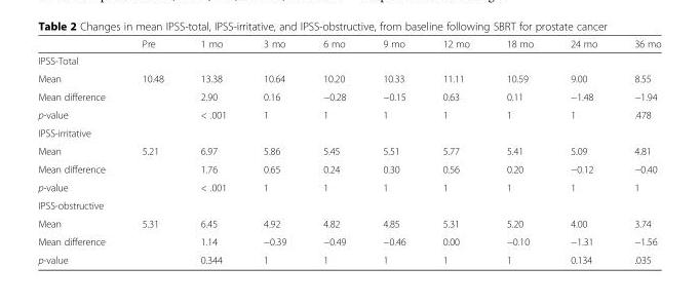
<table><thead><tr><td></td><td>Pre</td><td>1 mo</td><td>3 mo</td><td>6 mo</td><td>9 mo</td><td>12 mo</td><td>18 mo</td><td>24 mo</td><td>36 mo</td></tr></thead><tbody><tr><td colspan="10">IPSS-Total</td></tr><tr><td>Mean</td><td>10.48</td><td>13.38</td><td>10.64</td><td>10.20</td><td>10.33</td><td>11.11</td><td>10.59</td><td>9.00</td><td>8.55</td></tr><tr><td>Mean difference</td><td rowspan="2"></td><td>2.90</td><td>0.16</td><td>−0.28</td><td>−0.15</td><td>0.63</td><td>0.11</td><td>−1.48</td><td>−1.94</td></tr><tr><td>p-value</td><td>&lt; .001</td><td>1</td><td>1</td><td>1</td><td>1</td><td>1</td><td>1</td><td>.478</td></tr><tr><td colspan="10">IPSS-irritative</td></tr><tr><td>Mean</td><td>5.21</td><td>6.97</td><td>5.86</td><td>5.45</td><td>5.51</td><td>5.77</td><td>5.41</td><td>5.09</td><td>4.81</td></tr><tr><td>Mean difference</td><td rowspan="2"></td><td>1.76</td><td>0.65</td><td>0.24</td><td>0.30</td><td>0.56</td><td>0.20</td><td>−0.12</td><td>−0.40</td></tr><tr><td>p-value</td><td>&lt; .001</td><td>1</td><td>1</td><td>1</td><td>1</td><td>1</td><td>1</td><td>1</td></tr><tr><td colspan="10">IPSS-obstructive</td></tr><tr><td>Mean</td><td>5.31</td><td>6.45</td><td>4.92</td><td>4.82</td><td>4.85</td><td>5.31</td><td>5.20</td><td>4.00</td><td>3.74</td></tr><tr><td>Mean difference</td><td rowspan="2"></td><td>1.14</td><td>−0.39</td><td>−0.49</td><td>−0.46</td><td>0.00</td><td>−0.10</td><td>−1.31</td><td>−1.56</td></tr><tr><td>p-value</td><td>0.344</td><td>1</td><td>1</td><td>1</td><td>1</td><td>1</td><td>0.134</td><td>.035</td></tr></tbody></table>